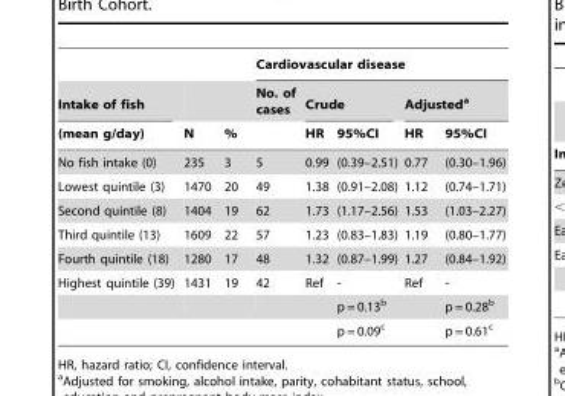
<table><thead><tr><td rowspan="3">Intake of fish (mean g/day)</td><td rowspan="3">N</td><td rowspan="3">%</td><td colspan="5">Cardiovascular disease</td></tr><tr><td rowspan="2">No. of cases</td><td colspan="2">Crude</td><td colspan="2">Adjusted<sup>a</sup></td></tr><tr><td>HR</td><td>95%CI</td><td>HR</td><td>95%CI</td></tr></thead><tbody><tr><td>No fish intake (0)</td><td>235</td><td>3</td><td>5</td><td>0.99</td><td>(0.39–2.51)</td><td>0.77</td><td>(0.30–1.96)</td></tr><tr><td>Lowest quintile (3)</td><td>1470</td><td>20</td><td>49</td><td>1.38</td><td>(0.91–2.08)</td><td>1.12</td><td>(0.74–1.71)</td></tr><tr><td>Second quintile (8)</td><td>1404</td><td>19</td><td>62</td><td>1.73</td><td>(1.17–2.56)</td><td>1.53</td><td>(1.03–2.27)</td></tr><tr><td>Third quintile (13)</td><td>1609</td><td>22</td><td>57</td><td>1.23</td><td>(0.83–1.83)</td><td>1.19</td><td>(0.80–1.77)</td></tr><tr><td>Fourth quintile (18)</td><td>1280</td><td>17</td><td>48</td><td>1.32</td><td>(0.87–1.99)</td><td>1.27</td><td>(0.84–1.92)</td></tr><tr><td rowspan="3">Highest quintile (39)</td><td>1431</td><td>19</td><td>42</td><td>Ref</td><td>-</td><td>Ref</td><td>-</td></tr><tr><td></td><td></td><td></td><td></td><td>p = 0.13<sup>b</sup></td><td></td><td>p = 0.28<sup>b</sup></td></tr><tr><td></td><td></td><td></td><td></td><td>p = 0.09<sup>c</sup></td><td></td><td>p = 0.61<sup>c</sup></td></tr></tbody></table>